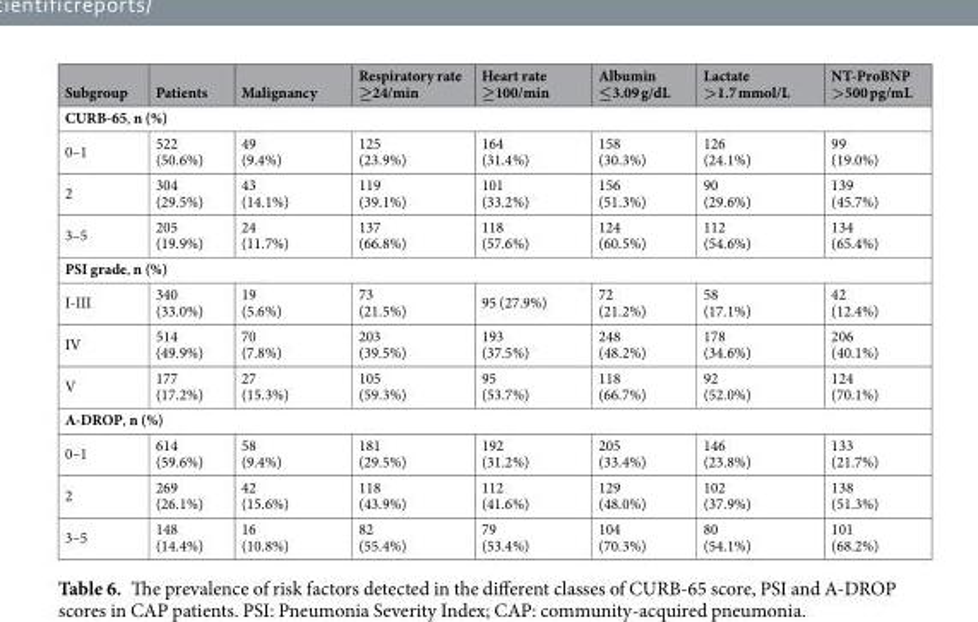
<table><thead><tr><td>Subgroup</td><td>Patients</td><td>Malignancy</td><td>Respiratory rate ≥24/min</td><td>Heart rate ≥100/min</td><td>Albumin ≤3.09 g/dL</td><td>Lactate &gt;1.7 mmol/L</td><td>NT-ProBNP &gt;500 pg/mL</td></tr></thead><tbody><tr><td colspan="8">CURB-65, n (%)</td></tr><tr><td>0–1</td><td>522 (50.6%)</td><td>49 (9.4%)</td><td>125 (23.9%)</td><td>164 (31.4%)</td><td>158 (30.3%)</td><td>126 (24.1%)</td><td>99 (19.0%)</td></tr><tr><td>2</td><td>304 (29.5%)</td><td>43 (14.1%)</td><td>119 (39.1%)</td><td>101 (33.2%)</td><td>156 (51.3%)</td><td>90 (29.6%)</td><td>139 (45.7%)</td></tr><tr><td>3–5</td><td>205 (19.9%)</td><td>24 (11.7%)</td><td>137 (66.8%)</td><td>118 (57.6%)</td><td>124 (60.5%)</td><td>112 (54.6%)</td><td>134 (65.4%)</td></tr><tr><td colspan="8">PSI grade, n (%)</td></tr><tr><td>I-III</td><td>340 (33.0%)</td><td>19 (5.6%)</td><td>73 (21.5%)</td><td>95 (27.9%)</td><td>72 (21.2%)</td><td>58 (17.1%)</td><td>42 (12.4%)</td></tr><tr><td>IV</td><td>514 (49.9%)</td><td>70 (7.8%)</td><td>203 (39.5%)</td><td>193 (37.5%)</td><td>248 (48.2%)</td><td>178 (34.6%)</td><td>206 (40.1%)</td></tr><tr><td>V</td><td>177 (17.2%)</td><td>27 (15.3%)</td><td>105 (59.3%)</td><td>95 (53.7%)</td><td>118 (66.7%)</td><td>92 (52.0%)</td><td>124 (70.1%)</td></tr><tr><td colspan="8">A-DROP, n (%)</td></tr><tr><td>0–1</td><td>614 (59.6%)</td><td>58 (9.4%)</td><td>181 (29.5%)</td><td>192 (31.2%)</td><td>205 (33.4%)</td><td>146 (23.8%)</td><td>133 (21.7%)</td></tr><tr><td>2</td><td>269 (26.1%)</td><td>42 (15.6%)</td><td>118 (43.9%)</td><td>112 (41.6%)</td><td>129 (48.0%)</td><td>102 (37.9%)</td><td>138 (51.3%)</td></tr><tr><td>3–5</td><td>148 (14.4%)</td><td>16 (10.8%)</td><td>82 (55.4%)</td><td>79 (53.4%)</td><td>104 (70.3%)</td><td>80 (54.1%)</td><td>101 (68.2%)</td></tr></tbody></table>